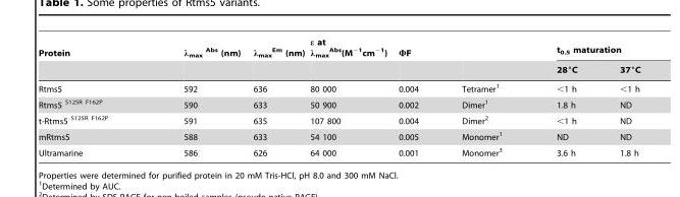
<table><thead><tr><td rowspan="2">Protein</td><td rowspan="2">λ<sub>max</sub> <sup>Abs</sup> (nm)</td><td rowspan="2">λ<sub>max</sub> <sup>Em</sup> (nm)</td><td rowspan="2">ε at λ<sub>max</sub> <sup>Abs</sup>(M<sup>−1</sup>cm<sup>−1</sup>)</td><td rowspan="2">ΦF</td><td rowspan="2"></td><td colspan="2">t<sub>0.5</sub> maturation</td></tr><tr><td>28°C</td><td>37°C</td></tr></thead><tbody><tr><td>Rtms5</td><td>592</td><td>636</td><td>80 000</td><td>0.004</td><td>Tetramer<sup>1</sup></td><td>&lt;1 h</td><td>&lt;1 h</td></tr><tr><td>Rtms5 <sup>S125R F162P</sup></td><td>590</td><td>633</td><td>50 900</td><td>0.002</td><td>Dimer<sup>1</sup></td><td>1.8 h</td><td>ND</td></tr><tr><td>t-Rtms5 <sup>S125R F162P</sup></td><td>591</td><td>635</td><td>107 800</td><td>0.004</td><td>Dimer<sup>2</sup></td><td>&lt;1 h</td><td>ND</td></tr><tr><td>mRtms5</td><td>588</td><td>633</td><td>54 100</td><td>0.005</td><td>Monomer<sup>1</sup></td><td>ND</td><td>ND</td></tr><tr><td>Ultramarine</td><td>586</td><td>626</td><td>64 000</td><td>0.001</td><td>Monomer<sup>3</sup></td><td>3.6 h</td><td>1.8 h</td></tr></tbody></table>